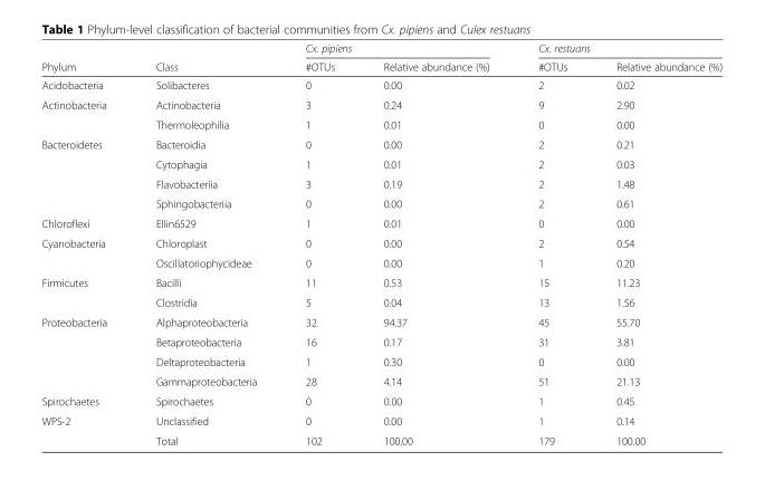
<table><thead><tr><td rowspan="2">Phylum</td><td rowspan="2">Class</td><td colspan="2">Cx. pipiens</td><td colspan="2">Cx. restuans</td></tr><tr><td>#OTUs</td><td>Relative abundance (%)</td><td>#OTUs</td><td>Relative abundance (%)</td></tr></thead><tbody><tr><td>Acidobacteria</td><td>Solibacteres</td><td>0</td><td>0.00</td><td>2</td><td>0.02</td></tr><tr><td rowspan="2">Actinobacteria</td><td>Actinobacteria</td><td>3</td><td>0.24</td><td>9</td><td>2.90</td></tr><tr><td>Thermoleophilia</td><td>1</td><td>0.01</td><td>0</td><td>0.00</td></tr><tr><td rowspan="4">Bacteroidetes</td><td>Bacteroidia</td><td>0</td><td>0.00</td><td>2</td><td>0.21</td></tr><tr><td>Cytophagia</td><td>1</td><td>0.01</td><td>2</td><td>0.03</td></tr><tr><td>Flavobacteriia</td><td>3</td><td>0.19</td><td>2</td><td>1.48</td></tr><tr><td>Sphingobacteriia</td><td>0</td><td>0.00</td><td>2</td><td>0.61</td></tr><tr><td>Chloroflexi</td><td>Ellin6529</td><td>1</td><td>0.01</td><td>0</td><td>0.00</td></tr><tr><td rowspan="2">Cyanobacteria</td><td>Chloroplast</td><td>0</td><td>0.00</td><td>2</td><td>0.54</td></tr><tr><td>Oscillatoriophycideae</td><td>0</td><td>0.00</td><td>1</td><td>0.20</td></tr><tr><td rowspan="2">Firmicutes</td><td>Bacilli</td><td>11</td><td>0.53</td><td>15</td><td>11.23</td></tr><tr><td>Clostridia</td><td>5</td><td>0.04</td><td>13</td><td>1.56</td></tr><tr><td rowspan="4">Proteobacteria</td><td>Alphaproteobacteria</td><td>32</td><td>94.37</td><td>45</td><td>55.70</td></tr><tr><td>Betaproteobacteria</td><td>16</td><td>0.17</td><td>31</td><td>3.81</td></tr><tr><td>Deltaproteobacteria</td><td>1</td><td>0.30</td><td>0</td><td>0.00</td></tr><tr><td>Gammaproteobacteria</td><td>28</td><td>4.14</td><td>51</td><td>21.13</td></tr><tr><td>Spirochaetes</td><td>Spirochaetes</td><td>0</td><td>0.00</td><td>1</td><td>0.45</td></tr><tr><td rowspan="2">WPS-2</td><td>Unclassified</td><td>0</td><td>0.00</td><td>1</td><td>0.14</td></tr><tr><td>Total</td><td>102</td><td>100.00</td><td>179</td><td>100.00</td></tr></tbody></table>